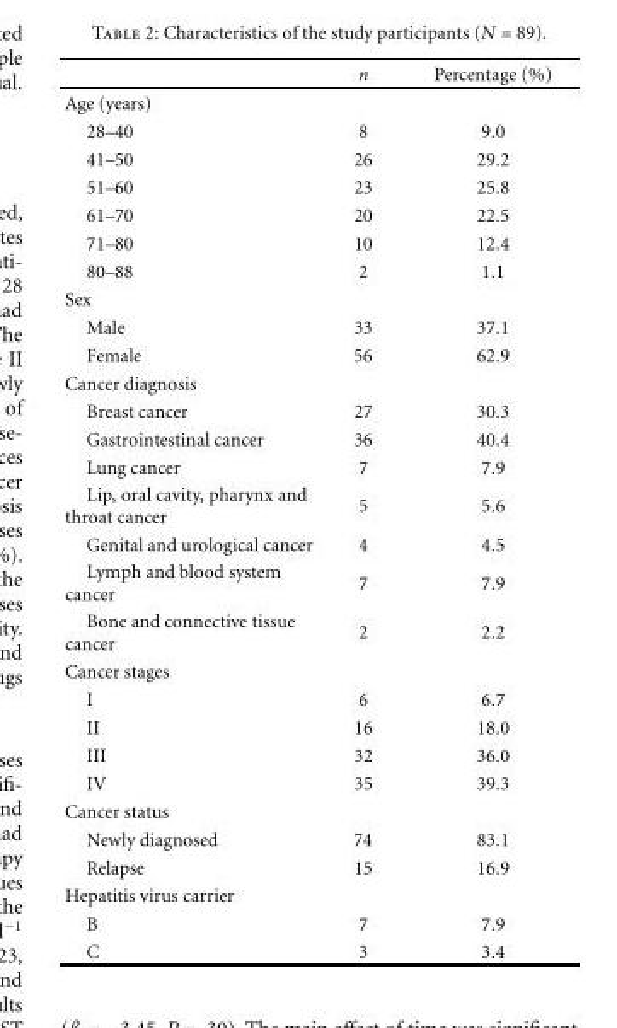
<table><thead><tr><td></td><td>n</td><td>Percentage (%)</td></tr></thead><tbody><tr><td colspan="3">Age (years)</td></tr><tr><td>28–40</td><td>8</td><td>9.0</td></tr><tr><td>41–50</td><td>26</td><td>29.2</td></tr><tr><td>51–60</td><td>23</td><td>25.8</td></tr><tr><td>61–70</td><td>20</td><td>22.5</td></tr><tr><td>71–80</td><td>10</td><td>12.4</td></tr><tr><td>80–88</td><td>2</td><td>1.1</td></tr><tr><td colspan="3">Sex</td></tr><tr><td>Male</td><td>33</td><td>37.1</td></tr><tr><td>Female</td><td>56</td><td>62.9</td></tr><tr><td colspan="3">Cancer diagnosis</td></tr><tr><td>Breast cancer</td><td>27</td><td>30.3</td></tr><tr><td>Gastrointestinal cancer</td><td>36</td><td>40.4</td></tr><tr><td>Lung cancer</td><td>7</td><td>7.9</td></tr><tr><td>Lip, oral cavity, pharynx and throat cancer</td><td>5</td><td>5.6</td></tr><tr><td>Genital and urological cancer</td><td>4</td><td>4.5</td></tr><tr><td>Lymph and blood system cancer</td><td>7</td><td>7.9</td></tr><tr><td>Bone and connective tissue cancer</td><td>2</td><td>2.2</td></tr><tr><td colspan="3">Cancer stages</td></tr><tr><td>I</td><td>6</td><td>6.7</td></tr><tr><td>II</td><td>16</td><td>18.0</td></tr><tr><td>III</td><td>32</td><td>36.0</td></tr><tr><td>IV</td><td>35</td><td>39.3</td></tr><tr><td colspan="3">Cancer status</td></tr><tr><td>Newly diagnosed</td><td>74</td><td>83.1</td></tr><tr><td>Relapse</td><td>15</td><td>16.9</td></tr><tr><td colspan="3">Hepatitis virus carrier</td></tr><tr><td>B</td><td>7</td><td>7.9</td></tr><tr><td>C</td><td>3</td><td>3.4</td></tr></tbody></table>